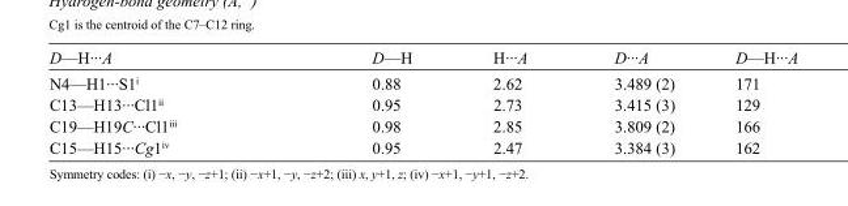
<table><tbody><tr><td>D—H···A</td><td>D—H</td><td>H···A</td><td>D···A</td><td>D—H···A</td></tr><tr><td>N4—H1···S1<sup>i</sup></td><td>0.88</td><td>2.62</td><td>3.489 (2)</td><td>171</td></tr><tr><td>C13—H13···Cl1<sup>ii</sup></td><td>0.95</td><td>2.73</td><td>3.415 (3)</td><td>129</td></tr><tr><td>C19—H19C···Cl1<sup>iii</sup></td><td>0.98</td><td>2.85</td><td>3.809 (2)</td><td>166</td></tr><tr><td>C15—H15···Cg1<sup>iv</sup></td><td>0.95</td><td>2.47</td><td>3.384 (3)</td><td>162</td></tr></tbody></table>